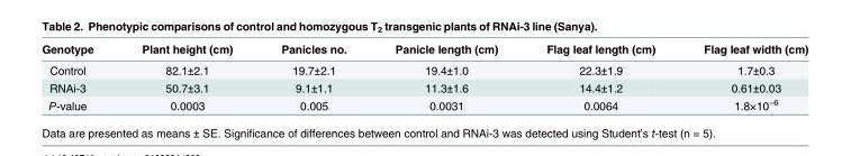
<table><thead><tr><td>Genotype</td><td>Plant height (cm)</td><td>Panicles no.</td><td>Panicle length (cm)</td><td>Flag leaf length (cm)</td><td>Flag leaf width (cm)</td></tr></thead><tbody><tr><td>Control</td><td>82.1±2.1</td><td>19.7±2.1</td><td>19.4±1.0</td><td>22.3±1.9</td><td>1.7±0.3</td></tr><tr><td>RNAi-3</td><td>50.7±3.1</td><td>9.1±1.1</td><td>11.3±1.6</td><td>14.4±1.2</td><td>0.61±0.03</td></tr><tr><td>P-value</td><td>0.0003</td><td>0.005</td><td>0.0031</td><td>0.0064</td><td>1.8×10<sup>−6</sup></td></tr></tbody></table>